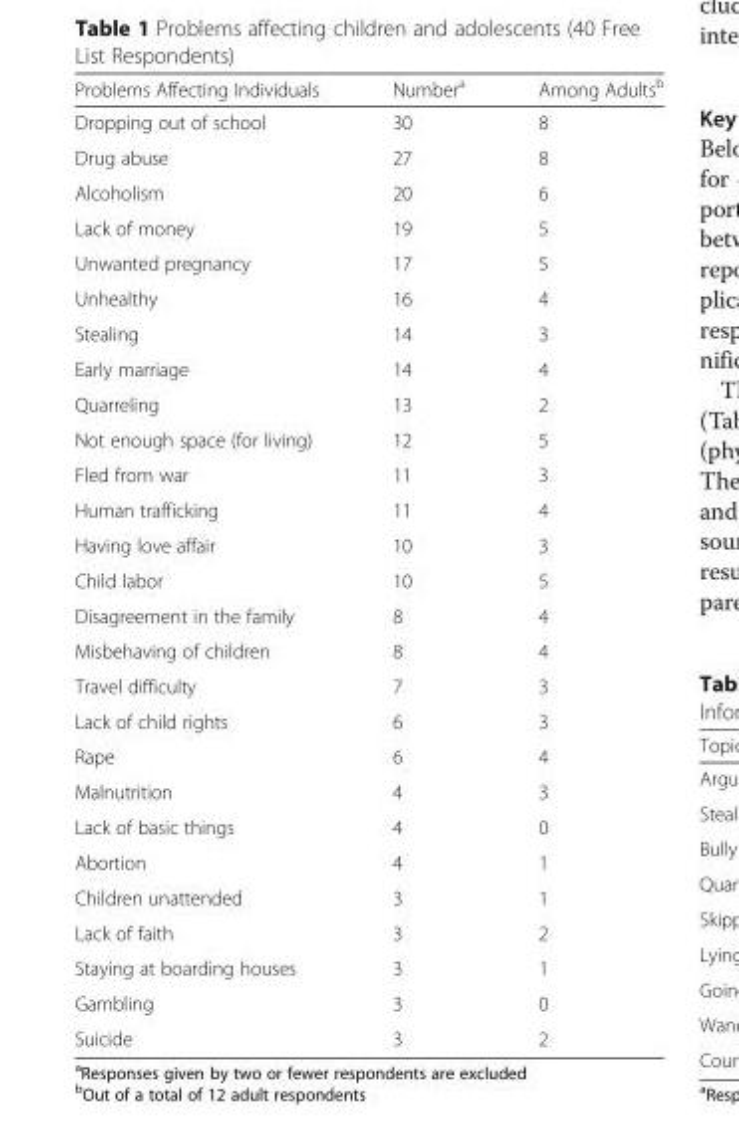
<table><thead><tr><td>Problems Affecting Individuals</td><td>Number<sup>a</sup></td><td>Among Adults<sup>b</sup></td></tr></thead><tbody><tr><td>Dropping out of school</td><td>30</td><td>8</td></tr><tr><td>Drug abuse</td><td>27</td><td>8</td></tr><tr><td>Alcoholism</td><td>20</td><td>6</td></tr><tr><td>Lack of money</td><td>19</td><td>5</td></tr><tr><td>Unwanted pregnancy</td><td>17</td><td>5</td></tr><tr><td>Unhealthy</td><td>16</td><td>4</td></tr><tr><td>Stealing</td><td>14</td><td>3</td></tr><tr><td>Early marriage</td><td>14</td><td>4</td></tr><tr><td>Quarreling</td><td>13</td><td>2</td></tr><tr><td>Not enough space (for living)</td><td>12</td><td>5</td></tr><tr><td>Fled from war</td><td>11</td><td>3</td></tr><tr><td>Human trafficking</td><td>11</td><td>4</td></tr><tr><td>Having love affair</td><td>10</td><td>3</td></tr><tr><td>Child labor</td><td>10</td><td>5</td></tr><tr><td>Disagreement in the family</td><td>8</td><td>4</td></tr><tr><td>Misbehaving of children</td><td>8</td><td>4</td></tr><tr><td>Travel difficulty</td><td>7</td><td>3</td></tr><tr><td>Lack of child rights</td><td>6</td><td>3</td></tr><tr><td>Rape</td><td>6</td><td>4</td></tr><tr><td>Malnutrition</td><td>4</td><td>3</td></tr><tr><td>Lack of basic things</td><td>4</td><td>0</td></tr><tr><td>Abortion</td><td>4</td><td>1</td></tr><tr><td>Children unattended</td><td>3</td><td>1</td></tr><tr><td>Lack of faith</td><td>3</td><td>2</td></tr><tr><td>Staying at boarding houses</td><td>3</td><td>1</td></tr><tr><td>Gambling</td><td>3</td><td>0</td></tr><tr><td>Suicide</td><td>3</td><td>2</td></tr></tbody></table>